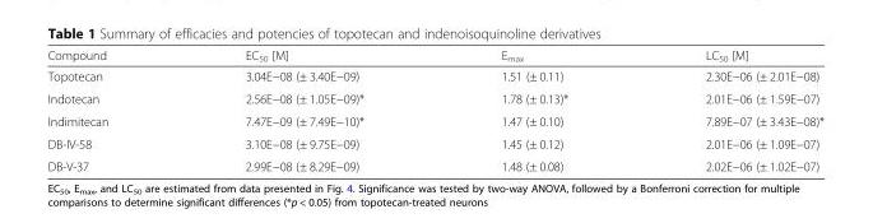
<table><thead><tr><td>Compound</td><td>EC<sub>50</sub> [M]</td><td>E<sub>max</sub></td><td>LC<sub>50</sub> [M]</td></tr></thead><tbody><tr><td>Topotecan</td><td>3.04E−08 (± 3.40E−09)</td><td>1.51 (± 0.11)</td><td>2.30E−06 (± 2.01E−08)</td></tr><tr><td>Indotecan</td><td>2.56E−08 (± 1.05E−09)*</td><td>1.78 (± 0.13)*</td><td>2.01E−06 (± 1.59E−07)</td></tr><tr><td>Indimitecan</td><td>7.47E−09 (± 7.49E−10)*</td><td>1.47 (± 0.10)</td><td>7.89E−07 (± 3.43E−08)*</td></tr><tr><td>DB-IV-58</td><td>3.10E−08 (± 9.75E−09)</td><td>1.45 (± 0.12)</td><td>2.01E−06 (± 1.09E−07)</td></tr><tr><td>DB-V-37</td><td>2.99E−08 (± 8.29E−09)</td><td>1.48 (± 0.08)</td><td>2.02E−06 (± 1.02E−07)</td></tr></tbody></table>